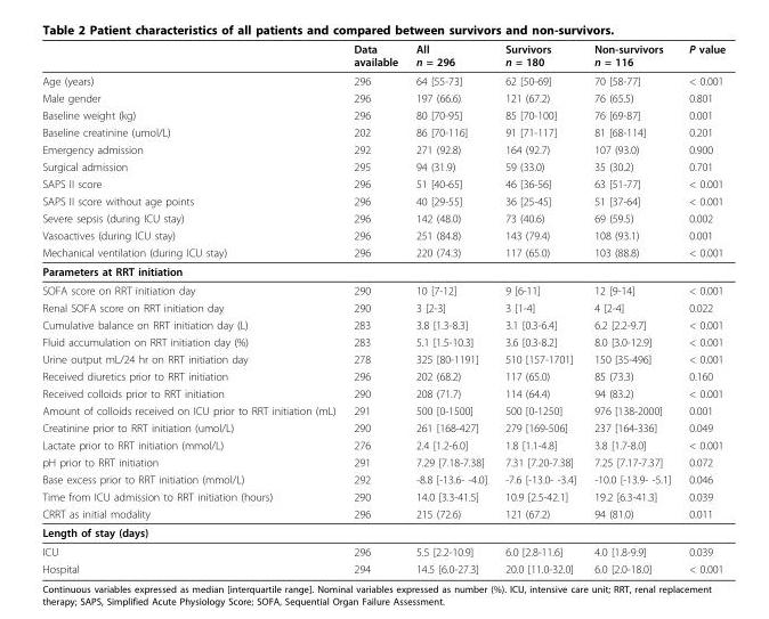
<table><thead><tr><td></td><td>Data available</td><td>All n = 296</td><td>Survivors n = 180</td><td>Non-survivors n = 116</td><td>P value</td></tr></thead><tbody><tr><td>Age (years)</td><td>296</td><td>64 [55-73]</td><td>62 [50-69]</td><td>70 [58-77]</td><td>&lt; 0.001</td></tr><tr><td>Male gender</td><td>296</td><td>197 (66.6)</td><td>121 (67.2)</td><td>76 (65.5)</td><td>0.801</td></tr><tr><td>Baseline weight (kg)</td><td>296</td><td>80 [70-95]</td><td>85 [70-100]</td><td>76 [69-87]</td><td>0.001</td></tr><tr><td>Baseline creatinine (umol/L)</td><td>202</td><td>86 [70-116]</td><td>91 [71-117]</td><td>81 [68-114]</td><td>0.201</td></tr><tr><td>Emergency admission</td><td>292</td><td>271 (92.8)</td><td>164 (92.7)</td><td>107 (93.0)</td><td>0.900</td></tr><tr><td>Surgical admission</td><td>295</td><td>94 (31.9)</td><td>59 (33.0)</td><td>35 (30.2)</td><td>0.701</td></tr><tr><td>SAPS II score</td><td>296</td><td>51 [40-65]</td><td>46 [36-56]</td><td>63 [51-77]</td><td>&lt; 0.001</td></tr><tr><td>SAPS II score without age points</td><td>296</td><td>40 [29-55]</td><td>36 [25-45]</td><td>51 [37-64]</td><td>&lt; 0.001</td></tr><tr><td>Severe sepsis (during ICU stay)</td><td>296</td><td>142 (48.0)</td><td>73 (40.6)</td><td>69 (59.5)</td><td>0.002</td></tr><tr><td>Vasoactives (during ICU stay)</td><td>296</td><td>251 (84.8)</td><td>143 (79.4)</td><td>108 (93.1)</td><td>0.001</td></tr><tr><td>Mechanical ventilation (during ICU stay)</td><td>296</td><td>220 (74.3)</td><td>117 (65.0)</td><td>103 (88.8)</td><td>&lt; 0.001</td></tr><tr><td colspan="6">Parameters at RRT initiation</td></tr><tr><td>SOFA score on RRT initiation day</td><td>290</td><td>10 [7-12]</td><td>9 [6-11]</td><td>12 [9-14]</td><td>&lt; 0.001</td></tr><tr><td>Renal SOFA score on RRT initiation day</td><td>290</td><td>3 [2-3]</td><td>3 [1-4]</td><td>4 [2-4]</td><td>0.022</td></tr><tr><td>Cumulative balance on RRT initiation day (L)</td><td>283</td><td>3.8 [1.3-8.3]</td><td>3.1 [0.3-6.4]</td><td>6.2 [2.2-9.7]</td><td>&lt; 0.001</td></tr><tr><td>Fluid accumulation on RRT initiation day (%)</td><td>283</td><td>5.1 [1.5-10.3]</td><td>3.6 [0.3-8.2]</td><td>8.0 [3.0-12.9]</td><td>&lt; 0.001</td></tr><tr><td>Urine output mL/24 hr on RRT initiation day</td><td>278</td><td>325 [80-1191]</td><td>510 [157-1701]</td><td>150 [35-496]</td><td>&lt; 0.001</td></tr><tr><td>Received diuretics prior to RRT initiation</td><td>296</td><td>202 (68.2)</td><td>117 (65.0)</td><td>85 (73.3)</td><td>0.160</td></tr><tr><td>Received colloids prior to RRT initiation</td><td>290</td><td>208 (71.7)</td><td>114 (64.4)</td><td>94 (83.2)</td><td>&lt; 0.001</td></tr><tr><td>Amount of colloids received on ICU prior to RRT initiation (mL)</td><td>291</td><td>500 [0-1500]</td><td>500 [0-1250]</td><td>976 [138-2000]</td><td>0.001</td></tr><tr><td>Creatinine prior to RRT initiation (umol/L)</td><td>290</td><td>261 [168-427]</td><td>279 [169-506]</td><td>237 [164-336]</td><td>0.049</td></tr><tr><td>Lactate prior to RRT initiation (mmol/L)</td><td>276</td><td>2.4 [1.2-6.0]</td><td>1.8 [1.1-4.8]</td><td>3.8 [1.7-8.0]</td><td>&lt; 0.001</td></tr><tr><td>pH prior to RRT initiation</td><td>291</td><td>7.29 [7.18-7.38]</td><td>7.31 [7.20-7.38]</td><td>7.25 [7.17-7.37]</td><td>0.072</td></tr><tr><td>Base excess prior to RRT initiation (mmol/L)</td><td>292</td><td>-8.8 [-13.6- -4.0]</td><td>-7.6 [-13.0- -3.4]</td><td>-10.0 [-13.9- -5.1]</td><td>0.046</td></tr><tr><td>Time from ICU admission to RRT initiation (hours)</td><td>290</td><td>14.0 [3.3-41.5]</td><td>10.9 [2.5-42.1]</td><td>19.2 [6.3-41.3]</td><td>0.039</td></tr><tr><td>CRRT as initial modality</td><td>296</td><td>215 (72.6)</td><td>121 (67.2)</td><td>94 (81.0)</td><td>0.011</td></tr><tr><td colspan="6">Length of stay (days)</td></tr><tr><td>ICU</td><td>296</td><td>5.5 [2.2-10.9]</td><td>6.0 [2.8-11.6]</td><td>4.0 [1.8-9.9]</td><td>0.039</td></tr><tr><td>Hospital</td><td>294</td><td>14.5 [6.0-27.3]</td><td>20.0 [11.0-32.0]</td><td>6.0 [2.0-18.0]</td><td>&lt; 0.001</td></tr></tbody></table>